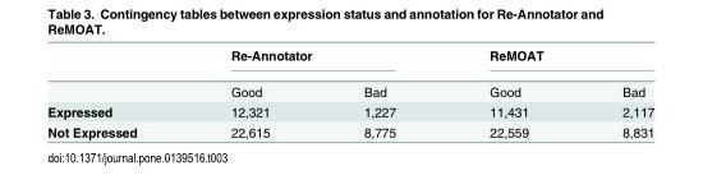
<table><thead><tr><td rowspan="2"></td><td colspan="2">Re-Annotator</td><td colspan="2">ReMOAT</td></tr><tr><td>Good</td><td>Bad</td><td>Good</td><td>Bad</td></tr></thead><tbody><tr><td>Expressed</td><td>12,321</td><td>1,227</td><td>11,431</td><td>2,117</td></tr><tr><td>Not Expressed</td><td>22,615</td><td>8,775</td><td>22,559</td><td>8,831</td></tr></tbody></table>